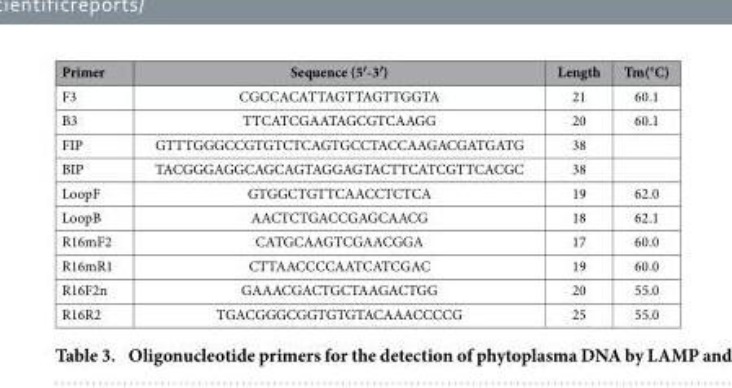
<table><thead><tr><td>Primer</td><td>Sequence (5′-3′)</td><td>Length</td><td>Tm(°C)</td></tr></thead><tbody><tr><td>F3</td><td>CGCCACATTAGTTAGTTGGTA</td><td>21</td><td>60.1</td></tr><tr><td>B3</td><td>TTCATCGAATAGCGTCAAGG</td><td>20</td><td>60.1</td></tr><tr><td>FIP</td><td>GTTTGGGCCGTGTCTCAGTGCCTACCAAGACGATGATG</td><td>38</td><td></td></tr><tr><td>BIP</td><td>TACGGGAGGCAGCAGTAGGAGTACTTCATCGTTCACGC</td><td>38</td><td></td></tr><tr><td>LoopF</td><td>GTGGCTGTTCAACCTCTCA</td><td>19</td><td>62.0</td></tr><tr><td>LoopB</td><td>AACTCTGACCGAGCAACG</td><td>18</td><td>62.1</td></tr><tr><td>R16mF2</td><td>CATGCAAGTCGAACGGA</td><td>17</td><td>60.0</td></tr><tr><td>R16mR1</td><td>CTTAACCCCAATCATCGAC</td><td>19</td><td>60.0</td></tr><tr><td>R16F2n</td><td>GAAACGACTGCTAAGACTGG</td><td>20</td><td>55.0</td></tr><tr><td>R16R2</td><td>TGACGGGCGGTGTGTACAAACCCCG</td><td>25</td><td>55.0</td></tr></tbody></table>